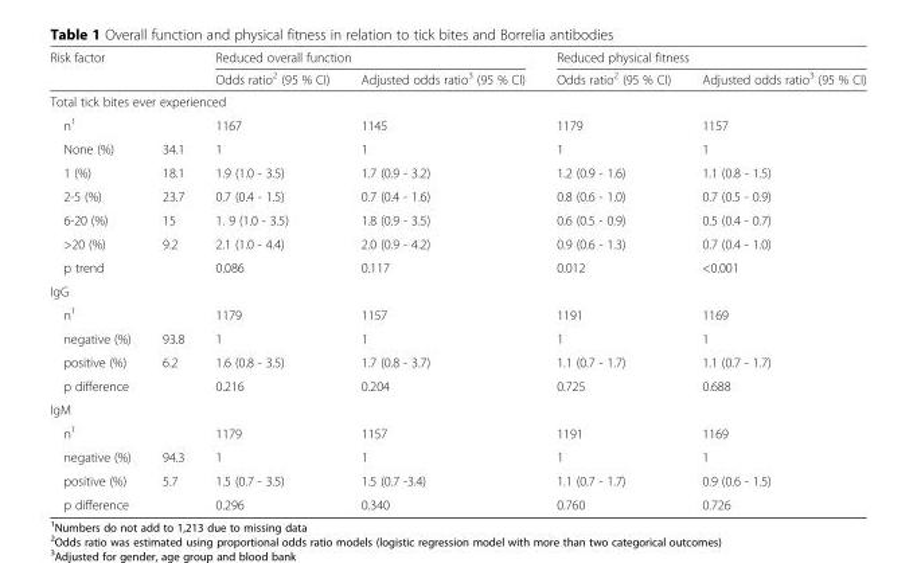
<table><thead><tr><td colspan="2">Risk factor</td><td colspan="2">Reduced overall function</td><td colspan="2">Reduced physical fitness</td></tr><tr><td></td><td></td><td>Odds ratio<sup>2</sup> (95 % CI)</td><td>Adjusted odds ratio<sup>3</sup> (95 % CI)</td><td>Odds ratio<sup>2</sup> (95 % CI)</td><td>Adjusted odds ratio<sup>3</sup> (95 % CI)</td></tr></thead><tbody><tr><td colspan="6">Total tick bites ever experienced</td></tr><tr><td>n<sup>1</sup></td><td></td><td>1167</td><td>1145</td><td>1179</td><td>1157</td></tr><tr><td>None (%)</td><td>34.1</td><td>1</td><td>1</td><td>1</td><td>1</td></tr><tr><td>1 (%)</td><td>18.1</td><td>1.9 (1.0 - 3.5)</td><td>1.7 (0.9 - 3.2)</td><td>1.2 (0.9 - 1.6)</td><td>1.1 (0.8 - 1.5)</td></tr><tr><td>2-5 (%)</td><td>23.7</td><td>0.7 (0.4 - 1.5)</td><td>0.7 (0.4 - 1.6)</td><td>0.8 (0.6 - 1.0)</td><td>0.7 (0.5 - 0.9)</td></tr><tr><td>6-20 (%)</td><td>15</td><td>1. 9 (1.0 - 3.5)</td><td>1.8 (0.9 - 3.5)</td><td>0.6 (0.5 - 0.9)</td><td>0.5 (0.4 - 0.7)</td></tr><tr><td>&gt;20 (%)</td><td>9.2</td><td>2.1 (1.0 - 4.4)</td><td>2.0 (0.9 - 4.2)</td><td>0.9 (0.6 - 1.3)</td><td>0.7 (0.4 - 1.0)</td></tr><tr><td>p trend</td><td></td><td>0.086</td><td>0.117</td><td>0.012</td><td>&lt;0.001</td></tr><tr><td colspan="6">IgG</td></tr><tr><td>n<sup>1</sup></td><td></td><td>1179</td><td>1157</td><td>1191</td><td>1169</td></tr><tr><td>negative (%)</td><td>93.8</td><td>1</td><td>1</td><td>1</td><td>1</td></tr><tr><td>positive (%)</td><td>6.2</td><td>1.6 (0.8 - 3.5)</td><td>1.7 (0.8 - 3.7)</td><td>1.1 (0.7 - 1.7)</td><td>1.1 (0.7 - 1.7)</td></tr><tr><td>p difference</td><td></td><td>0.216</td><td>0.204</td><td>0.725</td><td>0.688</td></tr><tr><td colspan="6">IgM</td></tr><tr><td>n<sup>1</sup></td><td></td><td>1179</td><td>1157</td><td>1191</td><td>1169</td></tr><tr><td>negative (%)</td><td>94.3</td><td>1</td><td>1</td><td>1</td><td>1</td></tr><tr><td>positive (%)</td><td>5.7</td><td>1.5 (0.7 - 3.5)</td><td>1.5 (0.7 -3.4)</td><td>1.1 (0.7 - 1.7)</td><td>0.9 (0.6 - 1.5)</td></tr><tr><td>p difference</td><td></td><td>0.296</td><td>0.340</td><td>0.760</td><td>0.726</td></tr></tbody></table>